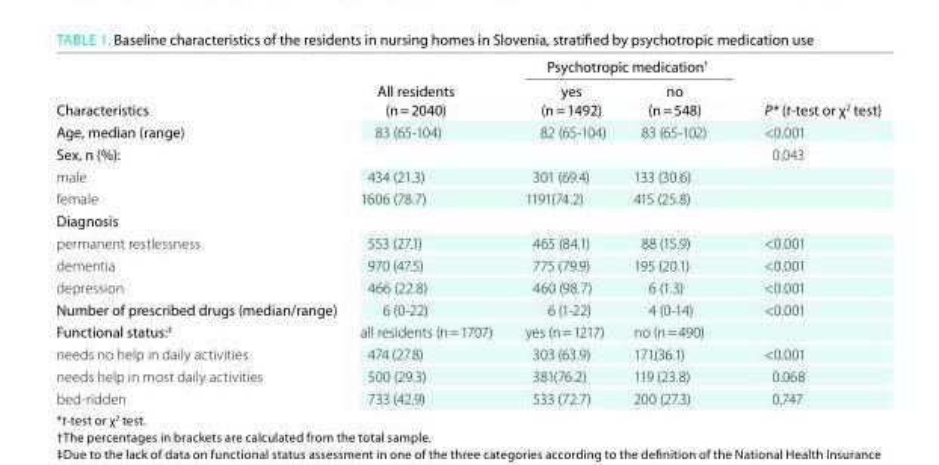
<table><thead><tr><td rowspan="2">Characteristics</td><td rowspan="2">all residents (n = 2040)</td><td colspan="2">Psychotropic medication†</td><td rowspan="2">P* (t-test or χ<sup>2</sup> test)</td></tr><tr><td>yes (n = 1492)</td><td>no (n = 548)</td></tr></thead><tbody><tr><td>age, median (range)</td><td>83 (65-104)</td><td>82 (65-104)</td><td>83 (65-102)</td><td>&lt;0.001</td></tr><tr><td>sex, n (%):</td><td></td><td></td><td></td><td>0.043</td></tr><tr><td>male</td><td>434 (21.3)</td><td>301 (69.4)</td><td>133 (30.6)</td><td></td></tr><tr><td>female</td><td>1606 (78.7)</td><td>1191(74.2)</td><td>415 (25.8)</td><td></td></tr><tr><td colspan="5">diagnosis</td></tr><tr><td>permanent restlessness</td><td>553 (27.1)</td><td>465 (84.1)</td><td>88 (15.9)</td><td>&lt;0.001</td></tr><tr><td>dementia</td><td>970 (47.5)</td><td>775 (79.9)</td><td>195 (20.1)</td><td>&lt;0.001</td></tr><tr><td>depression</td><td>466 (22.8)</td><td>460 (98.7)</td><td>6 (1.3)</td><td>&lt;0.001</td></tr><tr><td>number of prescribed drugs (median/range)</td><td>6 (0-22)</td><td>6 (1-22)</td><td>4 (0-14)</td><td>&lt;0.001</td></tr><tr><td>Functional status:<sup>‡</sup></td><td>all residents (n = 1707)</td><td>yes (n = 1217)</td><td>no (n = 490)</td><td></td></tr><tr><td>needs no help in daily activities</td><td>474 (27.8)</td><td>303 (63.9)</td><td>171(36.1)</td><td>&lt;0.001</td></tr><tr><td>needs help in most daily activities</td><td>500 (29.3)</td><td>381(76.2)</td><td>119 (23.8)</td><td>0.068</td></tr><tr><td>bed-ridden</td><td>733 (42.9)</td><td>533 (72.7)</td><td>200 (27.3)</td><td>0.747</td></tr></tbody></table>